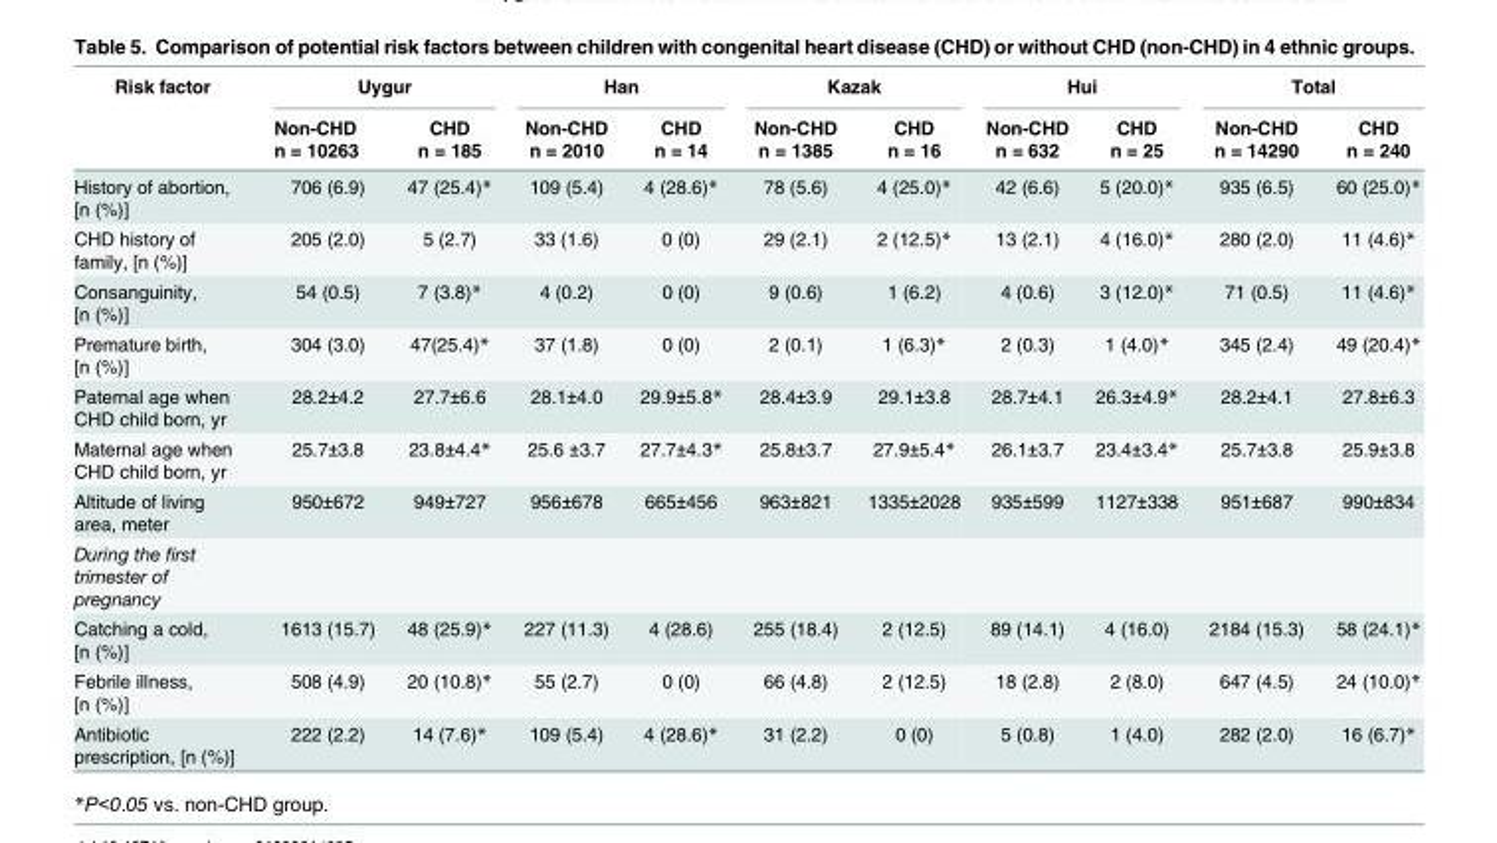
<table><thead><tr><td rowspan="2">Risk factor</td><td colspan="2">Uygur</td><td colspan="2">Han</td><td colspan="2">Kazak</td><td colspan="2">Hui</td><td colspan="2">Total</td></tr><tr><td>Non-CHD n = 10263</td><td>CHD n = 185</td><td>Non-CHD n = 2010</td><td>CHD n = 14</td><td>Non-CHD n = 1385</td><td>CHD n = 16</td><td>Non-CHD n = 632</td><td>CHD n = 25</td><td>Non-CHD n = 14290</td><td>CHD n = 240</td></tr></thead><tbody><tr><td>History of abortion, [n (%)]</td><td>706 (6.9)</td><td>47 (25.4)*</td><td>109 (5.4)</td><td>4 (28.6)*</td><td>78 (5.6)</td><td>4 (25.0)*</td><td>42 (6.6)</td><td>5 (20.0)*</td><td>935 (6.5)</td><td>60 (25.0)*</td></tr><tr><td>CHD history of family, [n (%)]</td><td>205 (2.0)</td><td>5 (2.7)</td><td>33 (1.6)</td><td>0 (0)</td><td>29 (2.1)</td><td>2 (12.5)*</td><td>13 (2.1)</td><td>4 (16.0)*</td><td>280 (2.0)</td><td>11 (4.6)*</td></tr><tr><td>Consanguinity, [n (%)]</td><td>54 (0.5)</td><td>7 (3.8)*</td><td>4 (0.2)</td><td>0 (0)</td><td>9 (0.6)</td><td>1 (6.2)</td><td>4 (0.6)</td><td>3 (12.0)*</td><td>71 (0.5)</td><td>11 (4.6)*</td></tr><tr><td>Premature birth, [n (%)]</td><td>304 (3.0)</td><td>47(25.4)*</td><td>37 (1.8)</td><td>0 (0)</td><td>2 (0.1)</td><td>1 (6.3)*</td><td>2 (0.3)</td><td>1 (4.0)*</td><td>345 (2.4)</td><td>49 (20.4)*</td></tr><tr><td>Paternal age when CHD child born, yr</td><td>28.2±4.2</td><td>27.7±6.6</td><td>28.1±4.0</td><td>29.9±5.8*</td><td>28.4±3.9</td><td>29.1±3.8</td><td>28.7±4.1</td><td>26.3±4.9*</td><td>28.2±4.1</td><td>27.8±6.3</td></tr><tr><td>Maternal age when CHD child born, yr</td><td>25.7±3.8</td><td>23.8±4.4*</td><td>25.6 ±3.7</td><td>27.7±4.3*</td><td>25.8±3.7</td><td>27.9±5.4*</td><td>26.1±3.7</td><td>23.4±3.4*</td><td>25.7±3.8</td><td>25.9±3.8</td></tr><tr><td>Altitude of living area, meter</td><td>950±672</td><td>949±727</td><td>956±678</td><td>665±456</td><td>963±821</td><td>1335±2028</td><td>935±599</td><td>1127±338</td><td>951±687</td><td>990±834</td></tr><tr><td colspan="11">During the first trimester of pregnancy</td></tr><tr><td>Catching a cold, [n (%)]</td><td>1613 (15.7)</td><td>48 (25.9)*</td><td>227 (11.3)</td><td>4 (28.6)</td><td>255 (18.4)</td><td>2 (12.5)</td><td>89 (14.1)</td><td>4 (16.0)</td><td>2184 (15.3)</td><td>58 (24.1)*</td></tr><tr><td>Febrile illness, [n (%)]</td><td>508 (4.9)</td><td>20 (10.8)*</td><td>55 (2.7)</td><td>0 (0)</td><td>66 (4.8)</td><td>2 (12.5)</td><td>18 (2.8)</td><td>2 (8.0)</td><td>647 (4.5)</td><td>24 (10.0)*</td></tr><tr><td>Antibiotic prescription, [n (%)]</td><td>222 (2.2)</td><td>14 (7.6)*</td><td>109 (5.4)</td><td>4 (28.6)*</td><td>31 (2.2)</td><td>0 (0)</td><td>5 (0.8)</td><td>1 (4.0)</td><td>282 (2.0)</td><td>16 (6.7)*</td></tr></tbody></table>